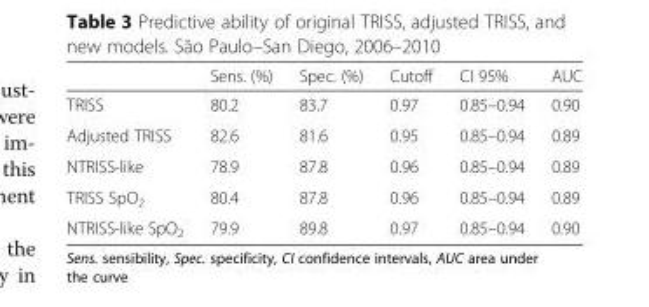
<table><thead><tr><td></td><td>Sens. (%)</td><td>Spec. (%)</td><td>Cutoff</td><td>CI 95%</td><td>AUC</td></tr></thead><tbody><tr><td>TRISS</td><td>80.2</td><td>83.7</td><td>0.97</td><td>0.85–0.94</td><td>0.90</td></tr><tr><td>Adjusted TRISS</td><td>82.6</td><td>81.6</td><td>0.95</td><td>0.85–0.94</td><td>0.89</td></tr><tr><td>NTRISS-like</td><td>78.9</td><td>87.8</td><td>0.96</td><td>0.85–0.94</td><td>0.89</td></tr><tr><td>TRISS SpO<sub>2</sub></td><td>80.4</td><td>87.8</td><td>0.96</td><td>0.85–0.94</td><td>0.89</td></tr><tr><td>NTRISS-like SpO<sub>2</sub></td><td>79.9</td><td>89.8</td><td>0.97</td><td>0.85–0.94</td><td>0.90</td></tr></tbody></table>